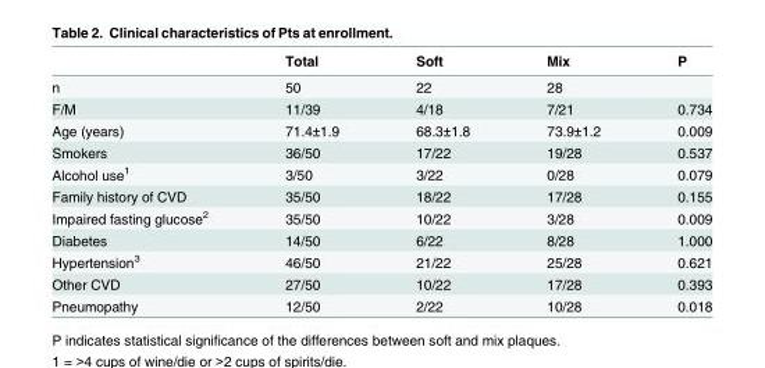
<table><thead><tr><td></td><td>Total</td><td>Soft</td><td>Mix</td><td>P</td></tr></thead><tbody><tr><td>n</td><td>50</td><td>22</td><td>28</td><td></td></tr><tr><td>F/M</td><td>11/39</td><td>4/18</td><td>7/21</td><td>0.734</td></tr><tr><td>Age (years)</td><td>71.4±1.9</td><td>68.3±1.8</td><td>73.9±1.2</td><td>0.009</td></tr><tr><td>Smokers</td><td>36/50</td><td>17/22</td><td>19/28</td><td>0.537</td></tr><tr><td>Alcohol use<sup>1</sup></td><td>3/50</td><td>3/22</td><td>0/28</td><td>0.079</td></tr><tr><td>Family history of CVD</td><td>35/50</td><td>18/22</td><td>17/28</td><td>0.155</td></tr><tr><td>Impaired fasting glucose<sup>2</sup></td><td>35/50</td><td>10/22</td><td>3/28</td><td>0.009</td></tr><tr><td>Diabetes</td><td>14/50</td><td>6/22</td><td>8/28</td><td>1.000</td></tr><tr><td>Hypertension<sup>3</sup></td><td>46/50</td><td>21/22</td><td>25/28</td><td>0.621</td></tr><tr><td>Other CVD</td><td>27/50</td><td>10/22</td><td>17/28</td><td>0.393</td></tr><tr><td>Pneumopathy</td><td>12/50</td><td>2/22</td><td>10/28</td><td>0.018</td></tr></tbody></table>